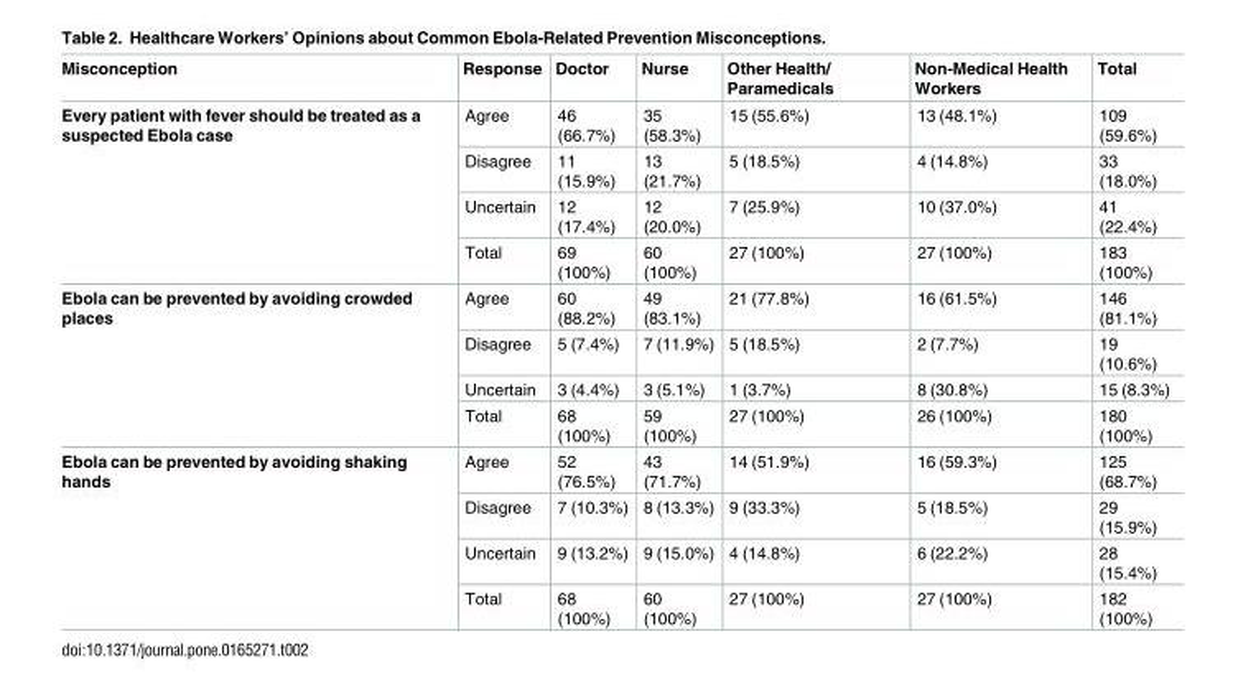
<table><thead><tr><td>Misconception</td><td>Response</td><td>Doctor</td><td>Nurse</td><td>Other Health/ Paramedicals</td><td>Non-Medical Health Workers</td><td>Total</td></tr></thead><tbody><tr><td rowspan="4">Every patient with fever should be treated as a suspected Ebola case</td><td>Agree</td><td>46 (66.7%)</td><td>35 (58.3%)</td><td>15 (55.6%)</td><td>13 (48.1%)</td><td>109 (59.6%)</td></tr><tr><td>Disagree</td><td>11 (15.9%)</td><td>13 (21.7%)</td><td>5 (18.5%)</td><td>4 (14.8%)</td><td>33 (18.0%)</td></tr><tr><td>Uncertain</td><td>12 (17.4%)</td><td>12 (20.0%)</td><td>7 (25.9%)</td><td>10 (37.0%)</td><td>41 (22.4%)</td></tr><tr><td>Total</td><td>69 (100%)</td><td>60 (100%)</td><td>27 (100%)</td><td>27 (100%)</td><td>183 (100%)</td></tr><tr><td rowspan="4">Ebola can be prevented by avoiding crowded places</td><td>Agree</td><td>60 (88.2%)</td><td>49 (83.1%)</td><td>21 (77.8%)</td><td>16 (61.5%)</td><td>146 (81.1%)</td></tr><tr><td>Disagree</td><td>5 (7.4%)</td><td>7 (11.9%)</td><td>5 (18.5%)</td><td>2 (7.7%)</td><td>19 (10.6%)</td></tr><tr><td>Uncertain</td><td>3 (4.4%)</td><td>3 (5.1%)</td><td>1 (3.7%)</td><td>8 (30.8%)</td><td>15 (8.3%)</td></tr><tr><td>Total</td><td>68 (100%)</td><td>59 (100%)</td><td>27 (100%)</td><td>26 (100%)</td><td>180 (100%)</td></tr><tr><td rowspan="4">Ebola can be prevented by avoiding shaking hands</td><td>Agree</td><td>52 (76.5%)</td><td>43 (71.7%)</td><td>14 (51.9%)</td><td>16 (59.3%)</td><td>125 (68.7%)</td></tr><tr><td>Disagree</td><td>7 (10.3%)</td><td>8 (13.3%)</td><td>9 (33.3%)</td><td>5 (18.5%)</td><td>29 (15.9%)</td></tr><tr><td>Uncertain</td><td>9 (13.2%)</td><td>9 (15.0%)</td><td>4 (14.8%)</td><td>6 (22.2%)</td><td>28 (15.4%)</td></tr><tr><td>Total</td><td>68 (100%)</td><td>60 (100%)</td><td>27 (100%)</td><td>27 (100%)</td><td>182 (100%)</td></tr></tbody></table>